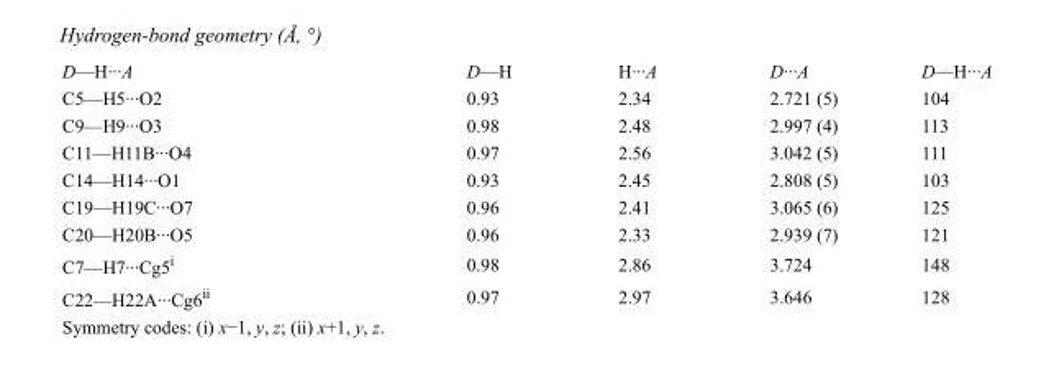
<table><tbody><tr><td>D—H···A</td><td>D—H</td><td>H···A</td><td>D···A</td><td>D—H···A</td></tr><tr><td>C5—H5···O2</td><td>0.93</td><td>2.34</td><td>2.721 (5)</td><td>104</td></tr><tr><td>C9—H9···O3</td><td>0.98</td><td>2.48</td><td>2.997 (4)</td><td>113</td></tr><tr><td>C11—H11B···O4</td><td>0.97</td><td>2.56</td><td>3.042 (5)</td><td>111</td></tr><tr><td>C14—H14···O1</td><td>0.93</td><td>2.45</td><td>2.808 (5)</td><td>103</td></tr><tr><td>C19—H19C···O7</td><td>0.96</td><td>2.41</td><td>3.065 (6)</td><td>125</td></tr><tr><td>C20—H20B···O5</td><td>0.96</td><td>2.33</td><td>2.939 (7)</td><td>121</td></tr><tr><td>C7—H7···Cg5<sup>i</sup></td><td>0.98</td><td>2.86</td><td>3.724</td><td>148</td></tr><tr><td>C22—H22A···Cg6<sup>ii</sup></td><td>0.97</td><td>2.97</td><td>3.646</td><td>128</td></tr></tbody></table>